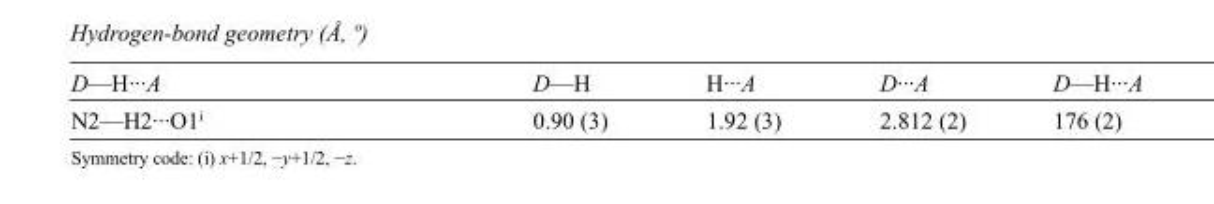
<table><tbody><tr><td>D—H···A</td><td>D—H</td><td>H···A</td><td>D···A</td><td>D—H···A</td></tr><tr><td>N2—H2···O1<sup>i</sup></td><td>0.90 (3)</td><td>1.92 (3)</td><td>2.812 (2)</td><td>176 (2)</td></tr></tbody></table>